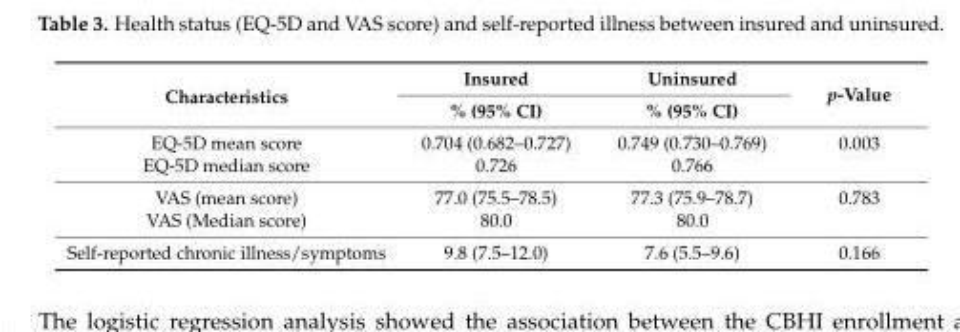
<table><thead><tr><td rowspan="2">Characteristics</td><td rowspan="2">Insured % (95% CI)</td><td rowspan="2">Uninsured % (95% CI)</td><td rowspan="2">p-Value</td></tr><tr></tr></thead><tbody><tr><td>EQ-5D mean score</td><td>0.704 (0.682–0.727)</td><td>0.749 (0.730–0.769)</td><td>0.003</td></tr><tr><td>EQ-5D median score</td><td>0.726</td><td>0.766</td><td></td></tr><tr><td>VAS (mean score)</td><td>77.0 (75.5–78.5)</td><td>77.3 (75.9–78.7)</td><td>0.783</td></tr><tr><td>VAS (Median score)</td><td>80.0</td><td>80.0</td><td></td></tr><tr><td>Self-reported chronic illness/symptoms</td><td>9.8 (7.5–12.0)</td><td>7.6 (5.5–9.6)</td><td>0.166</td></tr></tbody></table>